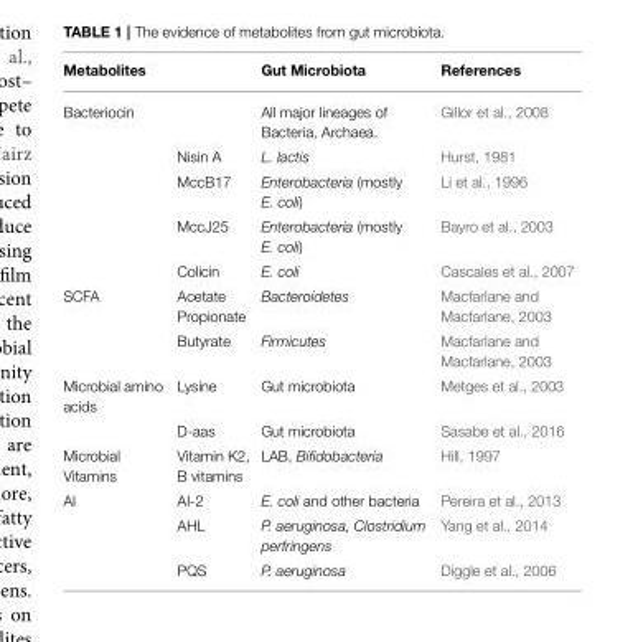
<table><thead><tr><td>Metabolites</td><td></td><td>Gut Microbiota</td><td>References</td></tr></thead><tbody><tr><td rowspan="5">Bacteriocin</td><td></td><td>All major lineages of Bacteria, Archaea.</td><td>Gillor et al., 2008</td></tr><tr><td>Nisin A</td><td>L. lactis</td><td>Hurst, 1981</td></tr><tr><td>MccB17</td><td>Enterobacteria (mostly E. coli)</td><td>Li et al., 1996</td></tr><tr><td>MccJ25</td><td>Enterobacteria (mostly E. coli)</td><td>Bayro et al., 2003</td></tr><tr><td>Colicin</td><td>E. coli</td><td>Cascales et al., 2007</td></tr><tr><td rowspan="2">SCFA</td><td>Acetate Propionate</td><td>Bacteroidetes</td><td>Macfarlane and Macfarlane, 2003</td></tr><tr><td>Butyrate</td><td>Firmicutes</td><td>Macfarlane and Macfarlane, 2003</td></tr><tr><td rowspan="2">Microbial amino acids</td><td>Lysine</td><td>Gut microbiota</td><td>Metges et al., 2003</td></tr><tr><td>D-aas</td><td>Gut microbiota</td><td>Sasabe et al., 2016</td></tr><tr><td>Microbial Vitamins</td><td>Vitamin K2, B vitamins</td><td>LAB, Bifidobacteria</td><td>Hill, 1997</td></tr><tr><td rowspan="3">AI</td><td>AI-2</td><td>E. coli and other bacteria</td><td>Pereira et al., 2013</td></tr><tr><td>AHL</td><td>P. aeruginosa, Clostridium perfringens</td><td>Yang et al., 2014</td></tr><tr><td>PQS</td><td>P. aeruginosa</td><td>Diggle et al., 2006</td></tr></tbody></table>